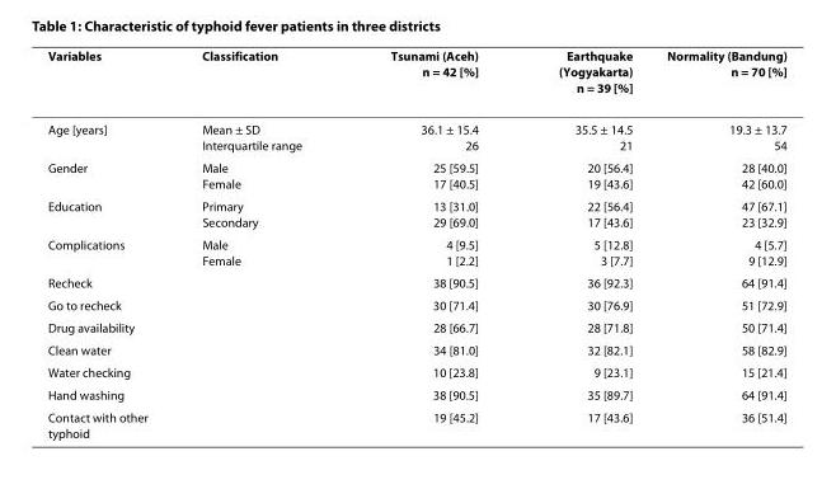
<table><thead><tr><td>Variables</td><td>Classification</td><td>Tsunami (Aceh) n = 42 [%]</td><td>Earthquake (Yogyakarta) n = 39 [%]</td><td>Normality (Bandung) n = 70 [%]</td></tr></thead><tbody><tr><td>Age [years]</td><td>Mean ± SD Interquartile range</td><td>36.1 ± 15.4 26</td><td>35.5 ± 14.5 21</td><td>19.3 ± 13.7 54</td></tr><tr><td>Gender</td><td>Male Female</td><td>25 [59.5] 17 [40.5]</td><td>20 [56.4] 19 [43.6]</td><td>28 [40.0] 42 [60.0]</td></tr><tr><td>Education</td><td>Primary Secondary</td><td>13 [31.0] 29 [69.0]</td><td>22 [56.4] 17 [43.6]</td><td>47 [67.1] 23 [32.9]</td></tr><tr><td>Complications</td><td>Male Female</td><td>4 [9.5] 1 [2.2]</td><td>5 [12.8] 3 [7.7]</td><td>4 [5.7] 9 [12.9]</td></tr><tr><td>Recheck</td><td></td><td>38 [90.5]</td><td>36 [92.3]</td><td>64 [91.4]</td></tr><tr><td>Go to recheck</td><td></td><td>30 [71.4]</td><td>30 [76.9]</td><td>51 [72.9]</td></tr><tr><td>Drug availability</td><td></td><td>28 [66.7]</td><td>28 [71.8]</td><td>50 [71.4]</td></tr><tr><td>Clean water</td><td></td><td>34 [81.0]</td><td>32 [82.1]</td><td>58 [82.9]</td></tr><tr><td>Water checking</td><td></td><td>10 [23.8]</td><td>9 [23.1]</td><td>15 [21.4]</td></tr><tr><td>Hand washing</td><td></td><td>38 [90.5]</td><td>35 [89.7]</td><td>64 [91.4]</td></tr><tr><td>Contact with other typhoid</td><td></td><td>19 [45.2]</td><td>17 [43.6]</td><td>36 [51.4]</td></tr></tbody></table>